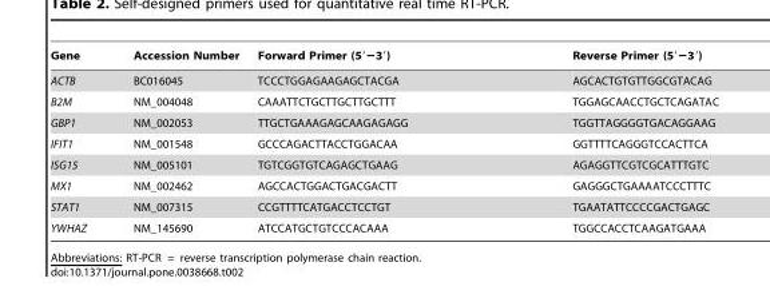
<table><thead><tr><td>Gene</td><td>Accession Number</td><td>Forward Primer (592 239)</td><td>Reverse Primer (592 239)</td></tr></thead><tbody><tr><td>ACTB</td><td>BC016045</td><td>TCCCTGGAGAAGAGCTACGA</td><td>AGCACTGTGTTGGCGTACAG</td></tr><tr><td>B2M</td><td>NM_004048</td><td>CAAATTCTGCTTGCTTGCTTT</td><td>TGGAGCAACCTGCTCAGATAC</td></tr><tr><td>GBP1</td><td>NM_002053</td><td>TTGCTGAAAGAGCAAGAGAGG</td><td>TGGTTAGGGGTGACAGGAAG</td></tr><tr><td>IFIT1</td><td>NM_001548</td><td>GCCCAGACTTACCTGGACAA</td><td>GGTTTTCAGGGTCCACTTCA</td></tr><tr><td>ISG15</td><td>NM_005101</td><td>TGTCGGTGTCAGAGCTGAAG</td><td>AGAGGTTCGTCGCATTTGTC</td></tr><tr><td>MX1</td><td>NM_002462</td><td>AGCCACTGGACTGACGACTT</td><td>GAGGGCTGAAAATCCCTTTC</td></tr><tr><td>STAT1</td><td>NM_007315</td><td>CCGTTTTCATGACCTCCTGT</td><td>TGAATATTCCCCGACTGAGC</td></tr><tr><td>YWHAZ</td><td>NM_145690</td><td>ATCCATGCTGTCCCACAAA</td><td>TGGCCACCTCAAGATGAAA</td></tr></tbody></table>